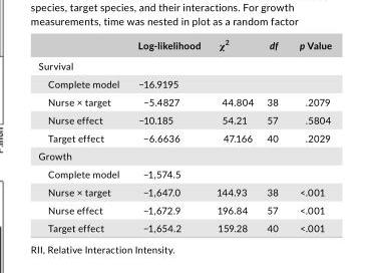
<table><thead><tr><td></td><td>Log- likelihood</td><td>χ<sup>2</sup></td><td>df</td><td>p Value</td></tr></thead><tbody><tr><td colspan="5">Survival</td></tr><tr><td>Complete model</td><td>−16.9195</td><td></td><td></td><td></td></tr><tr><td>Nurse × target</td><td>−5.4827</td><td>44.804</td><td>38</td><td>.2079</td></tr><tr><td>Nurse effect</td><td>−10.185</td><td>54.21</td><td>57</td><td>.5804</td></tr><tr><td>Target effect</td><td>−6.6636</td><td>47.166</td><td>40</td><td>.2029</td></tr><tr><td colspan="5">Growth</td></tr><tr><td>Complete model</td><td>−1,574.5</td><td></td><td></td><td></td></tr><tr><td>Nurse × target</td><td>−1,647.0</td><td>144.93</td><td>38</td><td>&lt;.001</td></tr><tr><td>Nurse effect</td><td>−1,672.9</td><td>196.84</td><td>57</td><td>&lt;.001</td></tr><tr><td>Target effect</td><td>−1,654.2</td><td>159.28</td><td>40</td><td>&lt;.001</td></tr></tbody></table>